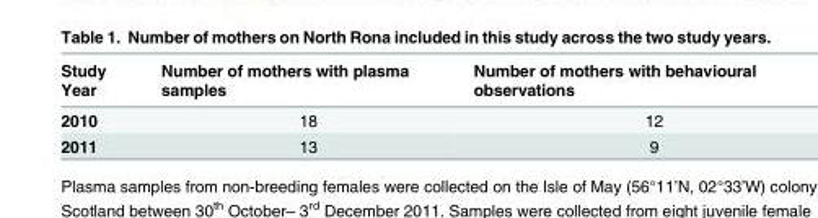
<table><thead><tr><td>Study Year</td><td>Number of mothers with plasma samples</td><td>Number of mothers with behavioural observations</td></tr></thead><tbody><tr><td>2010</td><td>18</td><td>12</td></tr><tr><td>2011</td><td>13</td><td>9</td></tr></tbody></table>